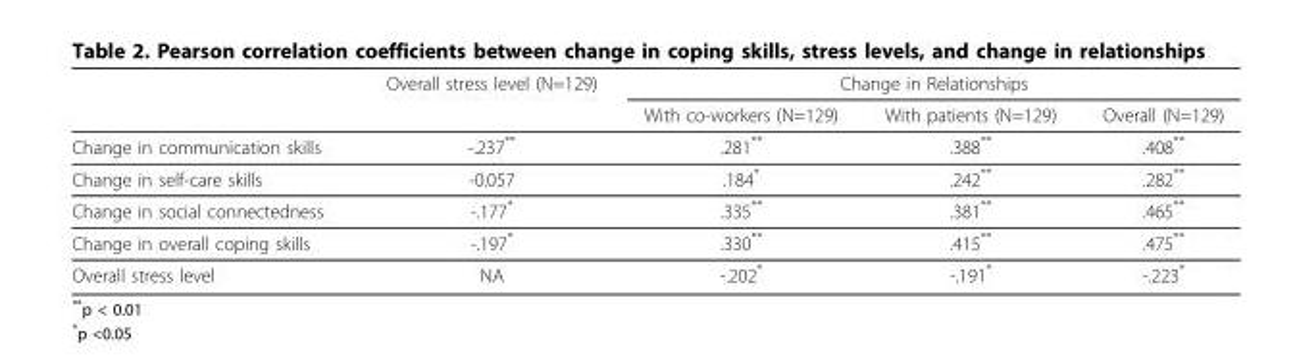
<table><thead><tr><td rowspan="2"></td><td rowspan="2">Overall stress level (N=129)</td><td colspan="3">Change in Relationships</td></tr><tr><td>With co-workers (N=129)</td><td>With patients (N=129)</td><td>Overall (N=129)</td></tr></thead><tbody><tr><td>Change in communication skills</td><td>-.237**</td><td>.281**</td><td>.388**</td><td>.408**</td></tr><tr><td>Change in self-care skills</td><td>-0.057</td><td>.184*</td><td>.242**</td><td>.282**</td></tr><tr><td>Change in social connectedness</td><td>-.177*</td><td>.335**</td><td>.381**</td><td>.465**</td></tr><tr><td>Change in overall coping skills</td><td>-.197*</td><td>.330**</td><td>.415**</td><td>.475**</td></tr><tr><td>Overall stress level</td><td>NA</td><td>-.202*</td><td>-.191*</td><td>-.223*</td></tr></tbody></table>